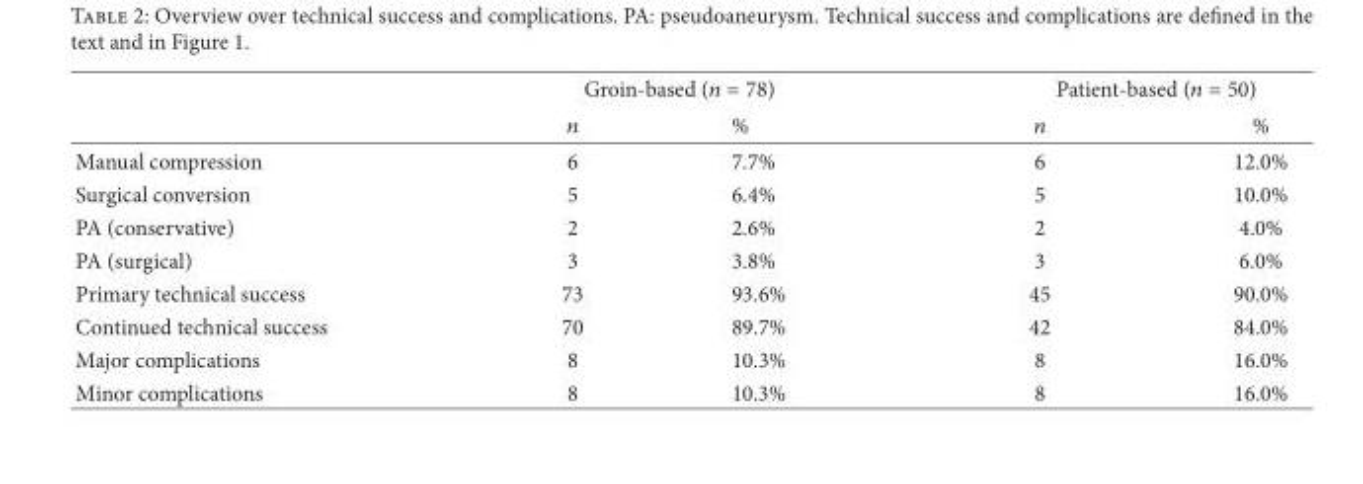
<table><thead><tr><td rowspan="2"></td><td colspan="2">Groin-based (𝑛𝑛 𝑛 𝑛𝑛)</td><td colspan="2">Patient-based (𝑛𝑛 𝑛 𝑛𝑛)</td></tr><tr><td>𝑛𝑛</td><td>%</td><td>𝑛𝑛</td><td>%</td></tr></thead><tbody><tr><td>Manual compression</td><td>6</td><td>7.7%</td><td>6</td><td>12.0%</td></tr><tr><td>Surgical conversion</td><td>5</td><td>6.4%</td><td>5</td><td>10.0%</td></tr><tr><td>PA (conservative)</td><td>2</td><td>2.6%</td><td>2</td><td>4.0%</td></tr><tr><td>PA (surgical)</td><td>3</td><td>3.8%</td><td>3</td><td>6.0%</td></tr><tr><td>Primary technical success</td><td>73</td><td>93.6%</td><td>45</td><td>90.0%</td></tr><tr><td>Continued technical success</td><td>70</td><td>89.7%</td><td>42</td><td>84.0%</td></tr><tr><td>Major complications</td><td>8</td><td>10.3%</td><td>8</td><td>16.0%</td></tr><tr><td>Minor complications</td><td>8</td><td>10.3%</td><td>8</td><td>16.0%</td></tr></tbody></table>